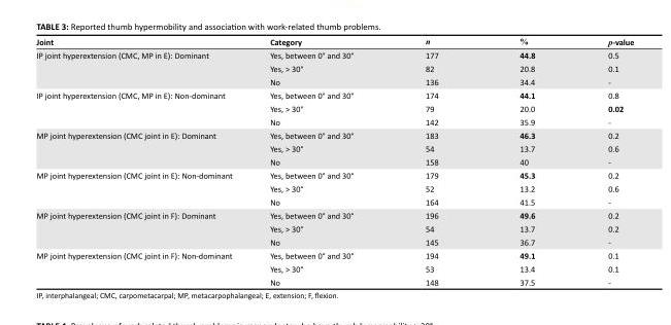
<table><thead><tr><td>Joint</td><td>Category</td><td>n</td><td>%</td><td>p-value</td></tr></thead><tbody><tr><td rowspan="3">IP joint hyperextension (CMC, MP in E): Dominant</td><td>Yes, between 0° and 30°</td><td>177</td><td>44.8</td><td>0.5</td></tr><tr><td>Yes, &gt; 30°</td><td>82</td><td>20.8</td><td>0.1</td></tr><tr><td>No</td><td>136</td><td>34.4</td><td>-</td></tr><tr><td rowspan="3">IP joint hyperextension (CMC, MP in E): Non-dominant</td><td>Yes, between 0° and 30°</td><td>174</td><td>44.1</td><td>0.8</td></tr><tr><td>Yes, &gt; 30°</td><td>79</td><td>20.0</td><td>0.02</td></tr><tr><td>No</td><td>142</td><td>35.9</td><td>-</td></tr><tr><td rowspan="3">MP joint hyperextension (CMC joint in E): Dominant</td><td>Yes, between 0° and 30°</td><td>183</td><td>46.3</td><td>0.2</td></tr><tr><td>Yes, &gt; 30°</td><td>54</td><td>13.7</td><td>0.6</td></tr><tr><td>No</td><td>158</td><td>40</td><td>-</td></tr><tr><td rowspan="3">MP joint hyperextension (CMC joint in E): Non-dominant</td><td>Yes, between 0° and 30°</td><td>179</td><td>45.3</td><td>0.2</td></tr><tr><td>Yes, &gt; 30°</td><td>52</td><td>13.2</td><td>0.6</td></tr><tr><td>No</td><td>164</td><td>41.5</td><td>-</td></tr><tr><td rowspan="3">MP joint hyperextension (CMC joint in F): Dominant</td><td>Yes, between 0° and 30°</td><td>196</td><td>49.6</td><td>0.2</td></tr><tr><td>Yes, &gt; 30°</td><td>54</td><td>13.7</td><td>0.2</td></tr><tr><td>No</td><td>145</td><td>36.7</td><td>-</td></tr><tr><td rowspan="3">MP joint hyperextension (CMC joint in F): Non-dominant</td><td>Yes, between 0° and 30°</td><td>194</td><td>49.1</td><td>0.1</td></tr><tr><td>Yes, &gt; 30°</td><td>53</td><td>13.4</td><td>0.1</td></tr><tr><td>No</td><td>148</td><td>37.5</td><td>-</td></tr></tbody></table>